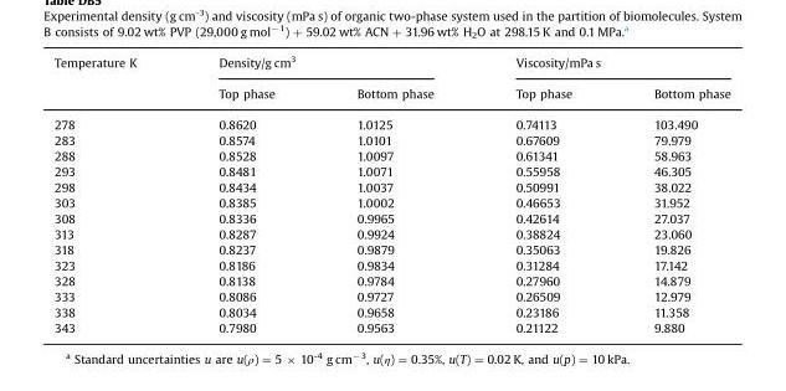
<table><thead><tr><td rowspan="2">Temperature K</td><td colspan="2">Density/g cm<sup>3</sup></td><td colspan="2">Viscosity/mPa s</td></tr><tr><td>Top phase</td><td>Bottom phase</td><td>Top phase</td><td>Bottom phase</td></tr></thead><tbody><tr><td>278</td><td>0.8620</td><td>1.0125</td><td>0.74113</td><td>103.490</td></tr><tr><td>283</td><td>0.8574</td><td>1.0101</td><td>0.67609</td><td>79.979</td></tr><tr><td>288</td><td>0.8528</td><td>1.0097</td><td>0.61341</td><td>58.963</td></tr><tr><td>293</td><td>0.8481</td><td>1.0071</td><td>0.55958</td><td>46.305</td></tr><tr><td>298</td><td>0.8434</td><td>1.0037</td><td>0.50991</td><td>38.022</td></tr><tr><td>303</td><td>0.8385</td><td>1.0002</td><td>0.46653</td><td>31.952</td></tr><tr><td>308</td><td>0.8336</td><td>0.9965</td><td>0.42614</td><td>27.037</td></tr><tr><td>313</td><td>0.8287</td><td>0.9924</td><td>0.38824</td><td>23.060</td></tr><tr><td>318</td><td>0.8237</td><td>0.9879</td><td>0.35063</td><td>19.826</td></tr><tr><td>323</td><td>0.8186</td><td>0.9834</td><td>0.31284</td><td>17.142</td></tr><tr><td>328</td><td>0.8138</td><td>0.9784</td><td>0.27960</td><td>14.879</td></tr><tr><td>333</td><td>0.8086</td><td>0.9727</td><td>0.26509</td><td>12.979</td></tr><tr><td>338</td><td>0.8034</td><td>0.9658</td><td>0.23186</td><td>11.358</td></tr><tr><td>343</td><td>0.7980</td><td>0.9563</td><td>0.21122</td><td>9.880</td></tr></tbody></table>